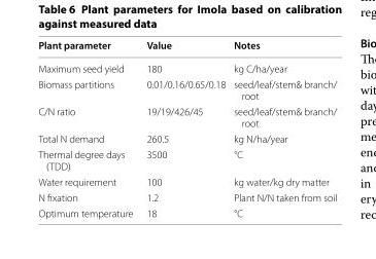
<table><thead><tr><td>Plant parameter</td><td>Value</td><td>Notes</td></tr></thead><tbody><tr><td>Maximum seed yield</td><td>180</td><td>kg C/ha/year</td></tr><tr><td>Biomass partitions</td><td>0.01/0.16/0.65/0.18</td><td>seed/leaf/stem&amp; branch/ root</td></tr><tr><td>C/N ratio</td><td>19/19/426/45</td><td>seed/leaf/stem&amp; branch/ root</td></tr><tr><td>Total N demand</td><td>260.5</td><td>kg N/ha/year</td></tr><tr><td>Thermal degree days (TDD)</td><td>3500</td><td>°C</td></tr><tr><td>Water requirement</td><td>100</td><td>kg water/kg dry matter</td></tr><tr><td>N fixation</td><td>1.2</td><td>Plant N/N taken from soil</td></tr><tr><td>Optimum temperature</td><td>18</td><td>°C</td></tr></tbody></table>